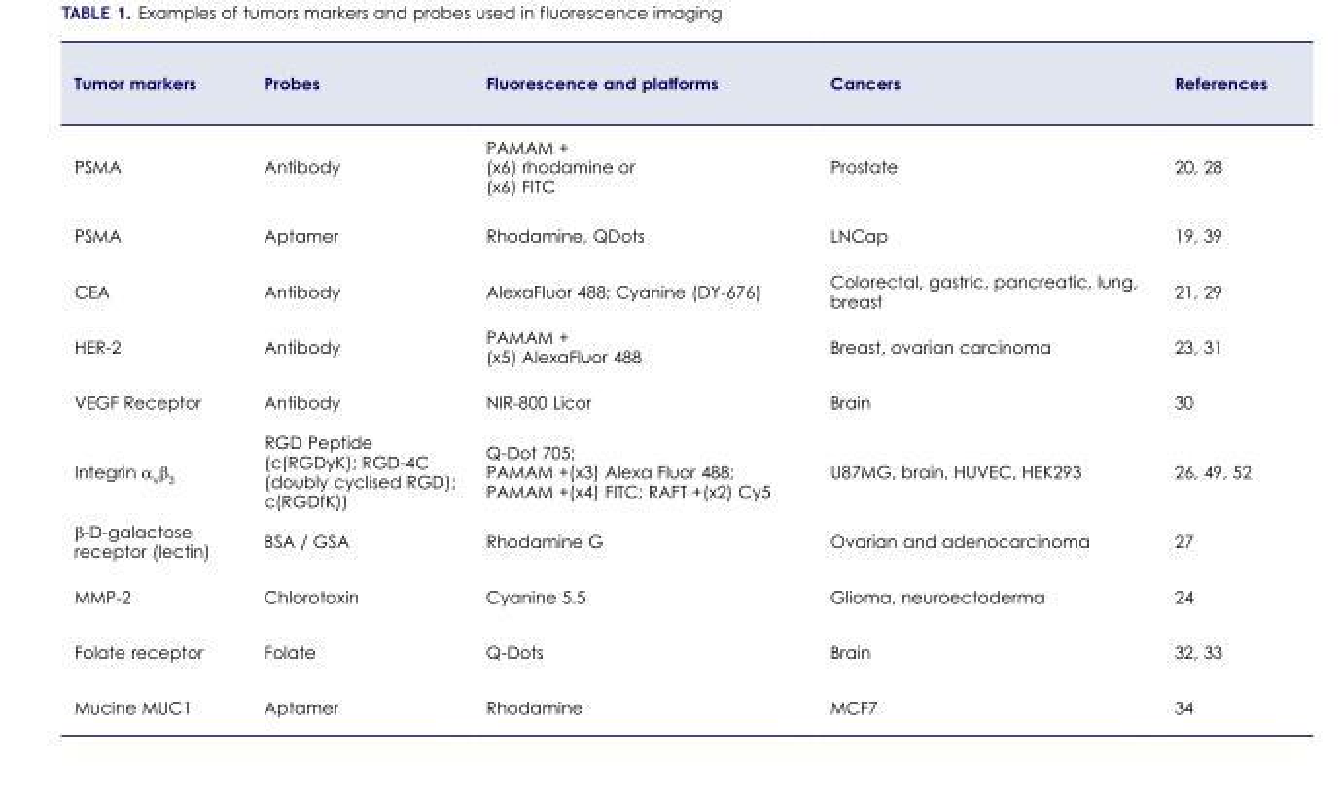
<table><thead><tr><td>Tumor markers</td><td>Probes</td><td>Fluorescence and platforms</td><td>Cancers</td><td>References</td></tr></thead><tbody><tr><td>PSMA</td><td>Antibody</td><td>PAMAM + (x6) rhodamine or (x6) FITC</td><td>Prostate</td><td>20, 28</td></tr><tr><td>PSMA</td><td>Aptamer</td><td>Rhodamine, QDots</td><td>LNCap</td><td>19, 39</td></tr><tr><td>CEA</td><td>Antibody</td><td>AlexaFluor 488; Cyanine (DY-676)</td><td>Colorectal, gastric, pancreatic, lung, breast</td><td>21, 29</td></tr><tr><td>HER-2</td><td>Antibody</td><td>PAMAM + (x5) AlexaFluor 488</td><td>Breast, ovarian carcinoma</td><td>23, 31</td></tr><tr><td>VEGF Receptor</td><td>Antibody</td><td>NIR-800 Licor</td><td>Brain</td><td>30</td></tr><tr><td>Integrin α<sub>V</sub>β<sub>3</sub></td><td>RGD Peptide (c(RGDyK); RGD-4C (doubly cyclised RGD); c(RGDfK))</td><td>Q-Dot 705; PAMAM +(x3) Alexa Fluor 488; PAMAM +(x4) FITC; RAFT +(x2) Cy5</td><td>U87MG, brain, HUVEC, HEK293</td><td>26, 49, 52</td></tr><tr><td>β-D-galactose receptor (lectin)</td><td>BSA / GSA</td><td>Rhodamine G</td><td>Ovarian and adenocarcinoma</td><td>27</td></tr><tr><td>MMP-2</td><td>Chlorotoxin</td><td>Cyanine 5.5</td><td>Glioma, neuroectoderma</td><td>24</td></tr><tr><td>Folate receptor</td><td>Folate</td><td>Q-Dots</td><td>Brain</td><td>32, 33</td></tr><tr><td>Mucine MUC1</td><td>Aptamer</td><td>Rhodamine</td><td>MCF7</td><td>34</td></tr></tbody></table>